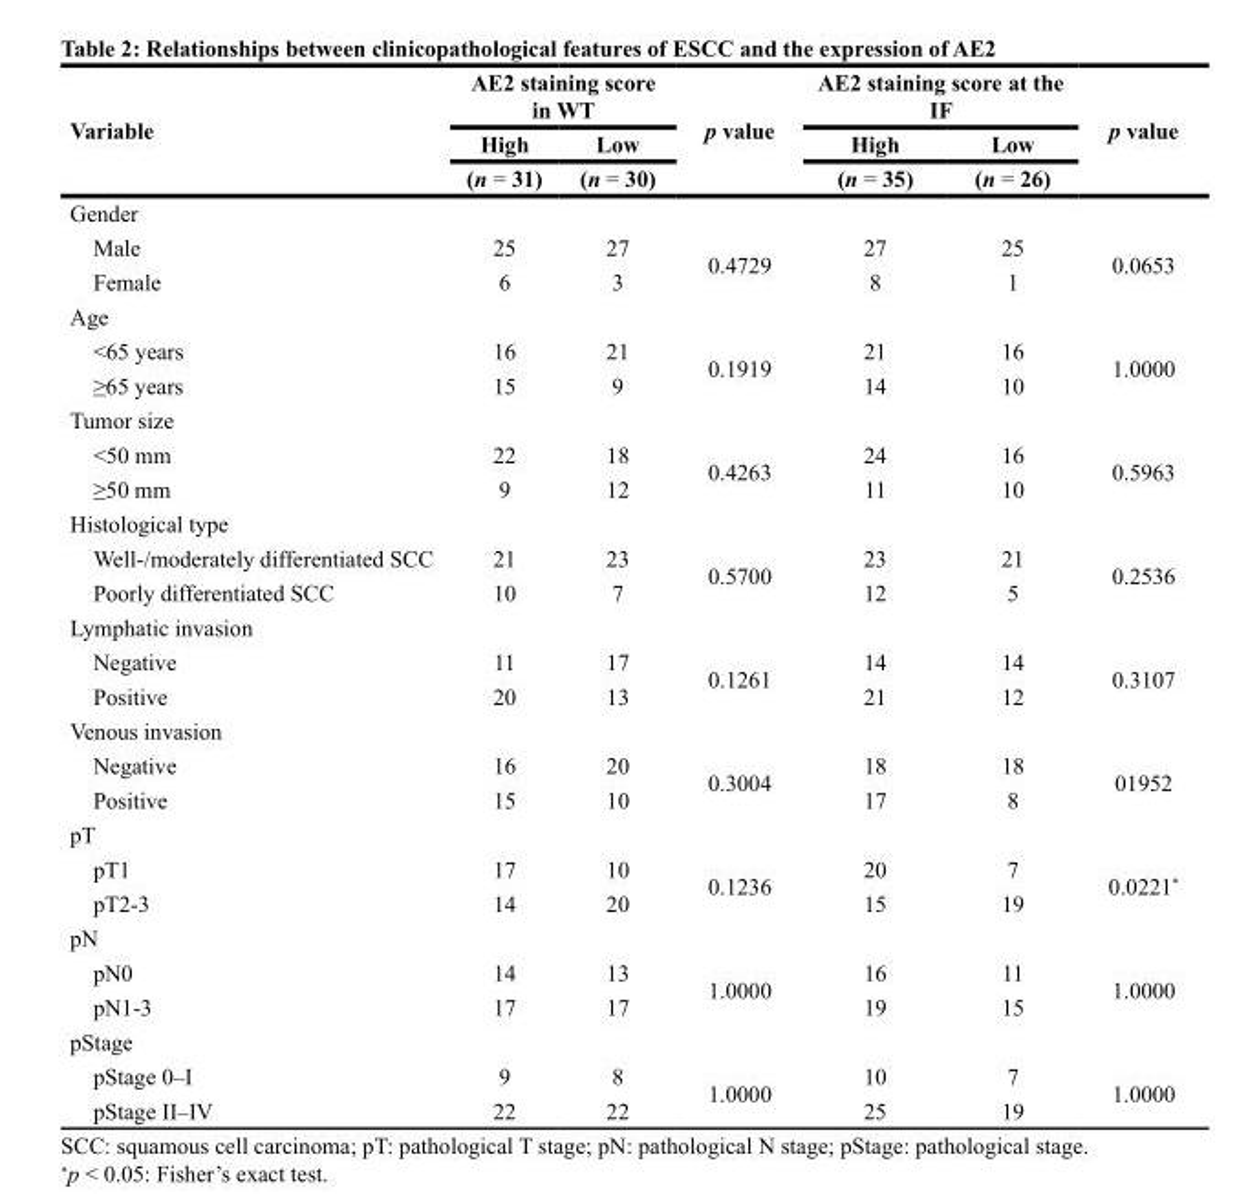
<table><thead><tr><td rowspan="3">Variable</td><td colspan="2">AE2 staining score in WT</td><td rowspan="3">p value</td><td colspan="2">AE2 staining score at the IF</td><td rowspan="3">p value</td></tr><tr><td rowspan="2">High (n = 31)</td><td rowspan="2">Low (n = 30)</td><td rowspan="2">High (n = 35)</td><td rowspan="2">Low (n = 26)</td></tr><tr></tr></thead><tbody><tr><td colspan="7">Gender</td></tr><tr><td>Male</td><td>25</td><td>27</td><td rowspan="2">0.4729</td><td>27</td><td>25</td><td rowspan="2">0.0653</td></tr><tr><td>Female</td><td>6</td><td>3</td><td>8</td><td>1</td></tr><tr><td colspan="7">Age</td></tr><tr><td>&lt;65 years</td><td>16</td><td>21</td><td rowspan="2">0.1919</td><td>21</td><td>16</td><td rowspan="2">1.0000</td></tr><tr><td>≥65 years</td><td>15</td><td>9</td><td>14</td><td>10</td></tr><tr><td colspan="7">Tumor size</td></tr><tr><td>&lt;50 mm</td><td>22</td><td>18</td><td rowspan="2">0.4263</td><td>24</td><td>16</td><td rowspan="2">0.5963</td></tr><tr><td>≥50 mm</td><td>9</td><td>12</td><td>11</td><td>10</td></tr><tr><td colspan="7">Histological type</td></tr><tr><td>Well-/moderately differentiated SCC</td><td>21</td><td>23</td><td rowspan="2">0.5700</td><td>23</td><td>21</td><td rowspan="2">0.2536</td></tr><tr><td>Poorly differentiated SCC</td><td>10</td><td>7</td><td>12</td><td>5</td></tr><tr><td colspan="7">Lymphatic invasion</td></tr><tr><td>Negative</td><td>11</td><td>17</td><td rowspan="2">0.1261</td><td>14</td><td>14</td><td rowspan="2">0.3107</td></tr><tr><td>Positive</td><td>20</td><td>13</td><td>21</td><td>12</td></tr><tr><td colspan="7">Venous invasion</td></tr><tr><td>Negative</td><td>16</td><td>20</td><td rowspan="2">0.3004</td><td>18</td><td>18</td><td rowspan="2">01952</td></tr><tr><td>Positive</td><td>15</td><td>10</td><td>17</td><td>8</td></tr><tr><td colspan="7">pT</td></tr><tr><td>pT1</td><td>17</td><td>10</td><td rowspan="2">0.1236</td><td>20</td><td>7</td><td rowspan="2">0.0221*</td></tr><tr><td>pT2-3</td><td>14</td><td>20</td><td>15</td><td>19</td></tr><tr><td colspan="7">pN</td></tr><tr><td>pN0</td><td>14</td><td>13</td><td rowspan="2">1.0000</td><td>16</td><td>11</td><td rowspan="2">1.0000</td></tr><tr><td>pN1-3</td><td>17</td><td>17</td><td>19</td><td>15</td></tr><tr><td colspan="7">pStage</td></tr><tr><td>pStage 0–I</td><td>9</td><td>8</td><td rowspan="2">1.0000</td><td>10</td><td>7</td><td rowspan="2">1.0000</td></tr><tr><td>pStage II–IV</td><td>22</td><td>22</td><td>25</td><td>19</td></tr></tbody></table>